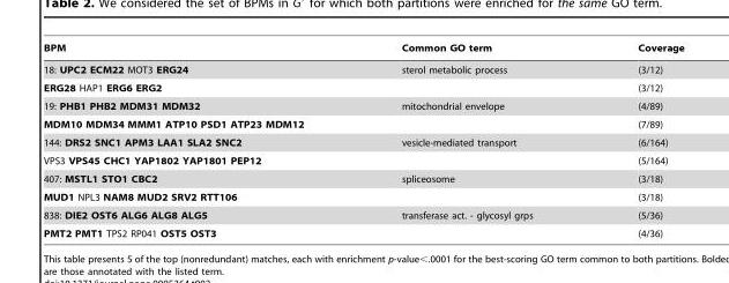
<table><thead><tr><td>BPM</td><td>Common GO term</td><td>Coverage</td></tr></thead><tbody><tr><td>18: UPC2 ECM22 MOT3 ERG24</td><td>sterol metabolic process</td><td>(3/12)</td></tr><tr><td>ERG28 HAP1 ERG6 ERG2</td><td></td><td>(3/12)</td></tr><tr><td>19: PHB1 PHB2 MDM31 MDM32</td><td>mitochondrial envelope</td><td>(4/89)</td></tr><tr><td>MDM10 MDM34 MMM1 ATP10 PSD1 ATP23 MDM12</td><td></td><td>(7/89)</td></tr><tr><td>144: DRS2 SNC1 APM3 LAA1 SLA2 SNC2</td><td>vesicle-mediated transport</td><td>(6/164)</td></tr><tr><td>VPS3 VPS45 CHC1 YAP1802 YAP1801 PEP12</td><td></td><td>(5/164)</td></tr><tr><td>407: MSTL1 STO1 CBC2</td><td>spliceosome</td><td>(3/18)</td></tr><tr><td>MUD1 NPL3 NAM8 MUD2 SRV2 RTT106</td><td></td><td>(3/18)</td></tr><tr><td>838: DIE2 OST6 ALG6 ALG8 ALG5</td><td>transferase act. - glycosyl grps</td><td>(5/36)</td></tr><tr><td>PMT2 PMT1 TPS2 RP041 OST5 OST3</td><td></td><td>(4/36)</td></tr></tbody></table>